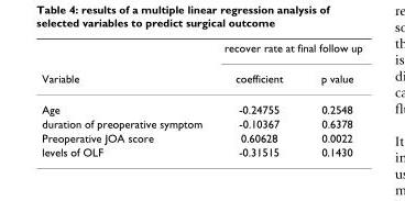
<table><thead><tr><td rowspan="2">Variable</td><td colspan="2">recover rate at final follow up</td></tr><tr><td>coefficient</td><td>p value</td></tr></thead><tbody><tr><td>Age</td><td>-0.24755</td><td>0.2548</td></tr><tr><td>duration of preoperative symptom</td><td>-0.10367</td><td>0.6378</td></tr><tr><td>Preoperative JOA score</td><td>0.60628</td><td>0.0022</td></tr><tr><td>levels of OLF</td><td>-0.31515</td><td>0.1430</td></tr></tbody></table>